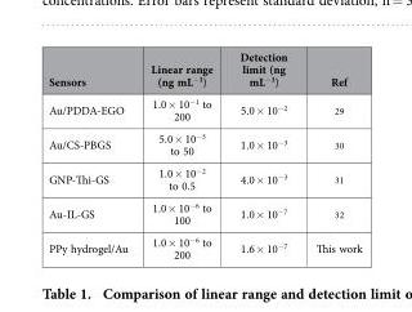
<table><thead><tr><td>Sensors</td><td>Linear range (ng mL<sup>−1</sup>)</td><td>Detection limit (ng mL<sup>−1</sup>)</td><td>Ref</td></tr></thead><tbody><tr><td>Au/PDDA-EGO</td><td>1.0 × 10<sup>−1</sup> to 200</td><td>5.0 × 10<sup>−2</sup></td><td>29</td></tr><tr><td>Au/CS-PBGS</td><td>5.0 × 10<sup>−3</sup> to 50</td><td>1.0 × 10<sup>−3</sup></td><td>30</td></tr><tr><td>GNP-Thi-GS</td><td>1.0 × 10<sup>−2</sup> to 0.5</td><td>4.0 × 10<sup>−3</sup></td><td>31</td></tr><tr><td>Au-IL-GS</td><td>1.0 × 10<sup>−6</sup> to 100</td><td>1.0 × 10<sup>−7</sup></td><td>32</td></tr><tr><td>PPy hydrogel/Au</td><td>1.0 × 10<sup>−6</sup> to 200</td><td>1.6 × 10<sup>−7</sup></td><td>This work</td></tr></tbody></table>